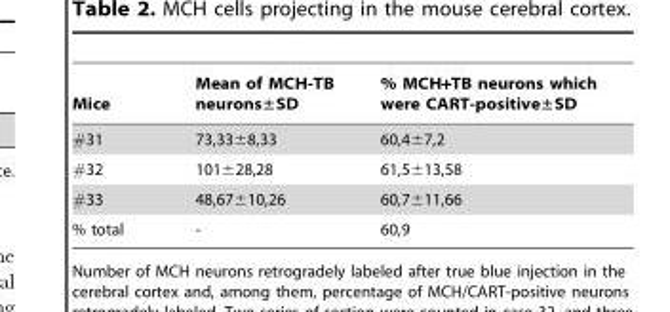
<table><thead><tr><td>Mice</td><td>Mean of MCH-TB neurons±SD</td><td>% MCH+TB neurons which were CART-positive±SD</td></tr></thead><tbody><tr><td>#31</td><td>73,33±8,33</td><td>60,4±7,2</td></tr><tr><td>#32</td><td>101±28,28</td><td>61,5±13,58</td></tr><tr><td>#33</td><td>48,67±10,26</td><td>60,7±11,66</td></tr><tr><td>% total</td><td>-</td><td>60,9</td></tr></tbody></table>